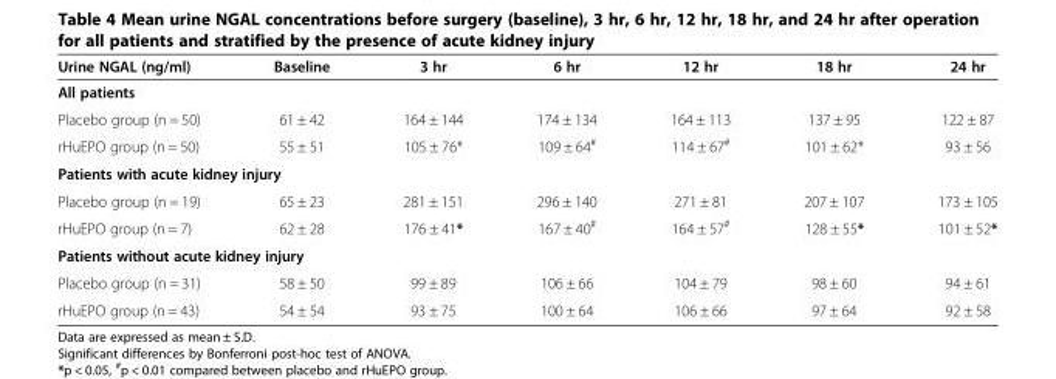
<table><thead><tr><td>Urine NGAL (ng/ml)</td><td>Baseline</td><td>3 hr</td><td>6 hr</td><td>12 hr</td><td>18 hr</td><td>24 hr</td></tr></thead><tbody><tr><td colspan="7">All patients</td></tr><tr><td>Placebo group (n = 50)</td><td>61 ± 42</td><td>164 ± 144</td><td>174 ± 134</td><td>164 ± 113</td><td>137 ± 95</td><td>122 ± 87</td></tr><tr><td>rHuEPO group (n = 50)</td><td>55 ± 51</td><td>105 ± 76*</td><td>109 ± 64<sup>#</sup></td><td>114 ± 67<sup>#</sup></td><td>101 ± 62*</td><td>93 ± 56</td></tr><tr><td colspan="7">Patients with acute kidney injury</td></tr><tr><td>Placebo group (n = 19)</td><td>65 ± 23</td><td>281 ± 151</td><td>296 ± 140</td><td>271 ± 81</td><td>207 ± 107</td><td>173 ± 105</td></tr><tr><td>rHuEPO group (n = 7)</td><td>62 ± 28</td><td>176 ± 41*</td><td>167 ± 40<sup>#</sup></td><td>164 ± 57<sup>#</sup></td><td>128 ± 55*</td><td>101 ± 52*</td></tr><tr><td colspan="7">Patients without acute kidney injury</td></tr><tr><td>Placebo group (n = 31)</td><td>58 ± 50</td><td>99 ± 89</td><td>106 ± 66</td><td>104 ± 79</td><td>98 ± 60</td><td>94 ± 61</td></tr><tr><td>rHuEPO group (n = 43)</td><td>54 ± 54</td><td>93 ± 75</td><td>100 ± 64</td><td>106 ± 66</td><td>97 ± 64</td><td>92 ± 58</td></tr></tbody></table>